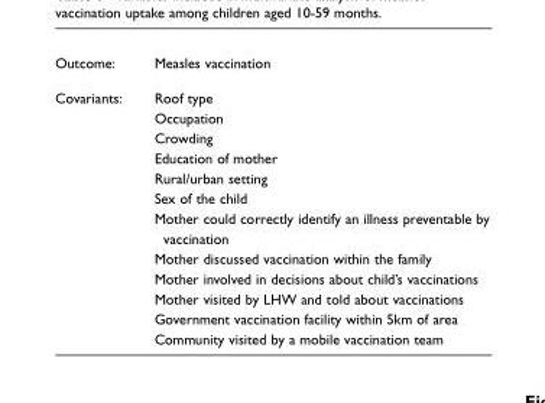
<table><tbody><tr><td>Outcome:</td><td>Measles vaccination</td></tr><tr><td rowspan="13">Covariants:</td><td>Roof type</td></tr><tr><td>Occupation</td></tr><tr><td>Crowding</td></tr><tr><td>Education of mother</td></tr><tr><td>Rural/urban setting</td></tr><tr><td>Sex of the child</td></tr><tr><td>Mother could correctly identify an illness preventable by</td></tr><tr><td>vaccination</td></tr><tr><td>Mother discussed vaccination within the family</td></tr><tr><td>Mother involved in decisions about child’s vaccinations</td></tr><tr><td>Mother visited by LHW and told about vaccinations</td></tr><tr><td>Government vaccination facility within 5km of area</td></tr><tr><td>Community visited by a mobile vaccination team</td></tr></tbody></table>